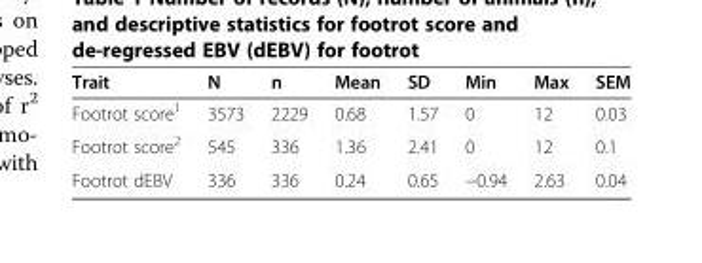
<table><thead><tr><td>Trait</td><td>N</td><td>n</td><td>Mean</td><td>SD</td><td>Min</td><td>Max</td><td>SEM</td></tr></thead><tbody><tr><td>Footrot score<sup>1</sup></td><td>3573</td><td>2229</td><td>0.68</td><td>1.57</td><td>0</td><td>12</td><td>0.03</td></tr><tr><td>Footrot score<sup>2</sup></td><td>545</td><td>336</td><td>1.36</td><td>2.41</td><td>0</td><td>12</td><td>0.1</td></tr><tr><td>Footrot dEBV</td><td>336</td><td>336</td><td>0.24</td><td>0.65</td><td>−0.94</td><td>2.63</td><td>0.04</td></tr></tbody></table>